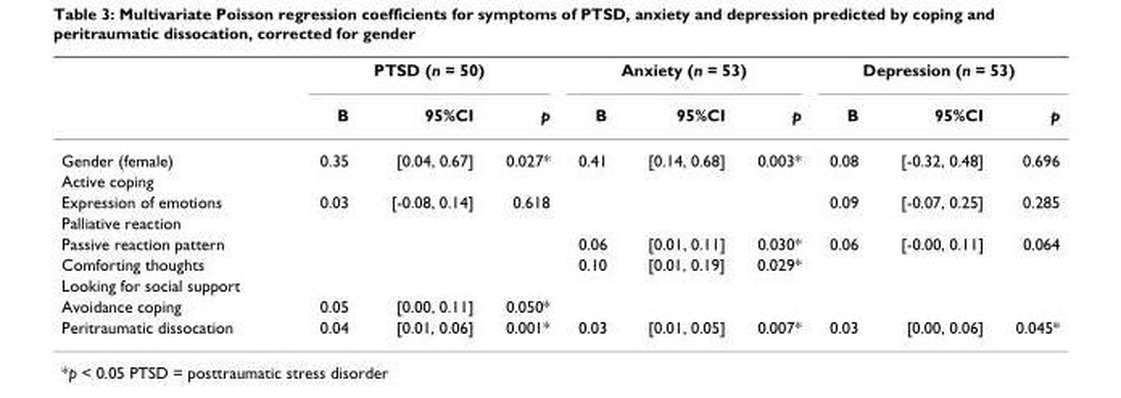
<table><thead><tr><td rowspan="2"></td><td colspan="3">PTSD (n = 50)</td><td colspan="3">Anxiety (n = 53)</td><td colspan="3">Depression (n = 53)</td></tr><tr><td>B</td><td>95%CI</td><td>p</td><td>B</td><td>95%CI</td><td>p</td><td>B</td><td>95%CI</td><td>p</td></tr></thead><tbody><tr><td>Gender (female)</td><td>0.35</td><td>[0.04, 0.67]</td><td>0.027*</td><td>0.41</td><td>[0.14, 0.68]</td><td>0.003*</td><td>0.08</td><td>[-0.32, 0.48]</td><td>0.696</td></tr><tr><td colspan="10">Active coping</td></tr><tr><td>Expression of emotions</td><td>0.03</td><td>[-0.08, 0.14]</td><td>0.618</td><td></td><td></td><td></td><td>0.09</td><td>[-0.07, 0.25]</td><td>0.285</td></tr><tr><td colspan="10">Palliative reaction</td></tr><tr><td>Passive reaction pattern</td><td></td><td></td><td></td><td>0.06</td><td>[0.01, 0.11]</td><td>0.030*</td><td>0.06</td><td>[-0.00, 0.11]</td><td>0.064</td></tr><tr><td>Comforting thoughts</td><td></td><td></td><td></td><td>0.10</td><td>[0.01, 0.19]</td><td>0.029*</td><td></td><td></td><td></td></tr><tr><td colspan="10">Looking for social support</td></tr><tr><td>Avoidance coping</td><td>0.05</td><td>[0.00, 0.11]</td><td>0.050*</td><td></td><td></td><td></td><td></td><td></td><td></td></tr><tr><td>Peritraumatic dissocation</td><td>0.04</td><td>[0.01, 0.06]</td><td>0.001*</td><td>0.03</td><td>[0.01, 0.05]</td><td>0.007*</td><td>0.03</td><td>[0.00, 0.06]</td><td>0.045*</td></tr></tbody></table>